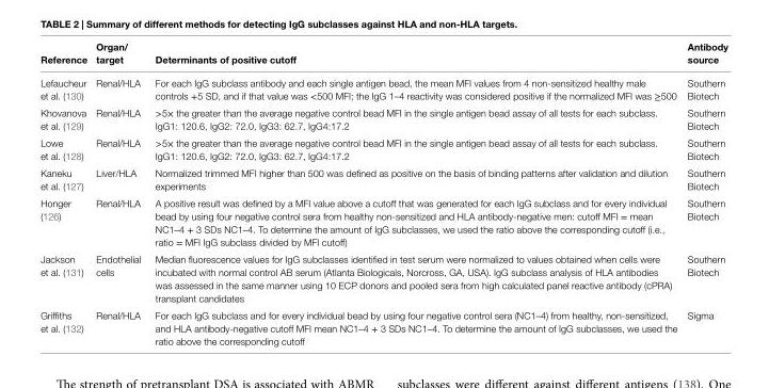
<table><thead><tr><td>Reference</td><td>Organ/ target</td><td>Determinants of positive cutoff</td><td>Antibody source</td></tr></thead><tbody><tr><td>Lefaucheur et al. (130)</td><td>Renal/HLA</td><td>For each IgG subclass antibody and each single antigen bead, the mean MFI values from 4 non-sensitized healthy male controls +5 SD, and if that value was &lt;500 MFI; the IgG 1–4 reactivity was considered positive if the normalized MFI was ≥500</td><td>Southern Biotech</td></tr><tr><td>Khovanova et al. (129)</td><td>Renal/HLA</td><td>&gt;5× the greater than the average negative control bead MFI in the single antigen bead assay of all tests for each subclass. IgG1: 120.6, IgG2: 72.0, IgG3: 62.7, IgG4:17.2</td><td>Southern Biotech</td></tr><tr><td>Lowe et al. (128)</td><td>Renal/HLA</td><td>&gt;5× the greater than the average negative control bead MFI in the single antigen bead assay of all tests for each subclass. IgG1: 120.6, IgG2: 72.0, IgG3: 62.7, IgG4:17.2</td><td>Southern Biotech</td></tr><tr><td>Kaneku et al. (127)</td><td>Liver/HLA</td><td>Normalized trimmed MFI higher than 500 was defined as positive on the basis of binding patterns after validation and dilution experiments</td><td>Southern Biotech</td></tr><tr><td>Honger (126)</td><td>Renal/HLA</td><td>A positive result was defined by a MFI value above a cutoff that was generated for each IgG subclass and for every individual bead by using four negative control sera from healthy non-sensitized and HLA antibody-negative men: cutoff MFI = mean NC1–4 + 3 SDs NC1–4. To determine the amount of IgG subclasses, we used the ratio above the corresponding cutoff (i.e., ratio = MFI IgG subclass divided by MFI cutoff)</td><td>Southern Biotech</td></tr><tr><td>Jackson et al. (131)</td><td>Endothelial cells</td><td>Median fluorescence values for IgG subclasses identified in test serum were normalized to values obtained when cells were incubated with normal control AB serum (Atlanta Biologicals, Norcross, GA, USA). IgG subclass analysis of HLA antibodies was assessed in the same manner using 10 ECP donors and pooled sera from high calculated panel reactive antibody (cPRA) transplant candidates</td><td>Southern Biotech</td></tr><tr><td>Griffiths et al. (132)</td><td>Renal/HLA</td><td>For each IgG subclass and for every individual bead by using four negative control sera (NC1–4) from healthy, non-sensitized, and HLA antibody-negative cutoff MFI mean NC1–4 + 3 SDs NC1–4. To determine the amount of IgG subclasses, we used the ratio above the corresponding cutoff</td><td>Sigma</td></tr></tbody></table>